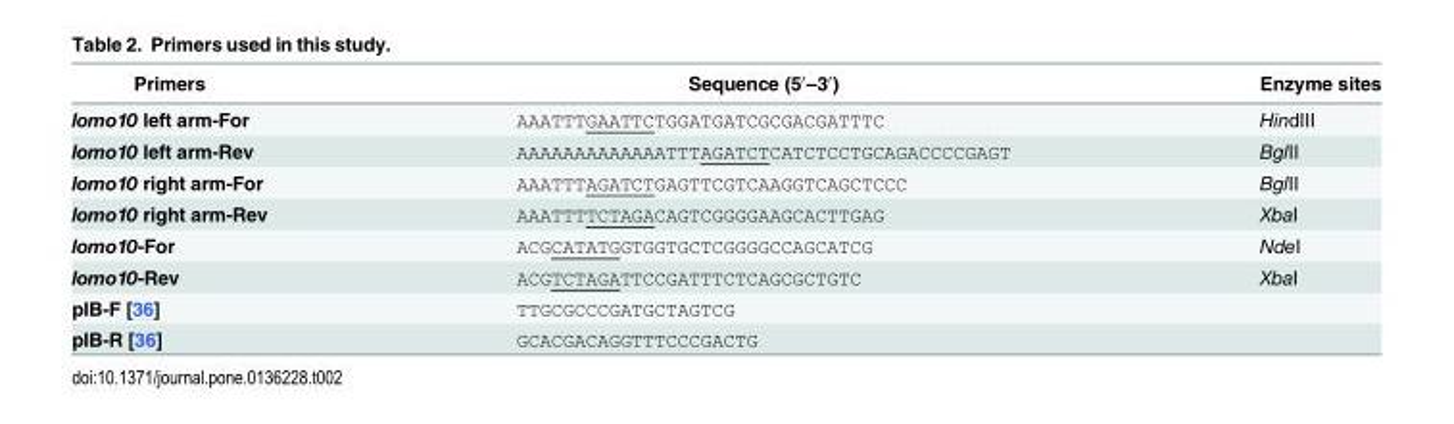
<table><thead><tr><td>Primers</td><td>Sequence (5′–3′)</td><td>Enzyme sites</td></tr></thead><tbody><tr><td>lomo10 left arm-For</td><td>AAATTTGAATTCTGGATGATCGCGACGATTTC</td><td>HindIII</td></tr><tr><td>lomo10 left arm-Rev</td><td>AAAAAAAAAAAAATTTAGATCTCATCTCCTGCAGACCCCGAGT</td><td>BglII</td></tr><tr><td>lomo10 right arm-For</td><td>AAATTTAGATCTGAGTTCGTCAAGGTCAGCTCCC</td><td>BglII</td></tr><tr><td>lomo10 right arm-Rev</td><td>AAATTTTCTAGACAGTCGGGGAAGCACTTGAG</td><td>XbaI</td></tr><tr><td>lomo10-For</td><td>ACGCATATGGTGGTGCTCGGGGCCAGCATCG</td><td>NdeI</td></tr><tr><td>lomo10-Rev</td><td>ACGTCTAGATTCCGATTTCTCAGCGCTGTC</td><td>XbaI</td></tr><tr><td>pIB-F [36]</td><td>TTGCGCCCGATGCTAGTCG</td><td></td></tr><tr><td>pIB-R [36]</td><td>GCACGACAGGTTTCCCGACTG</td><td></td></tr></tbody></table>